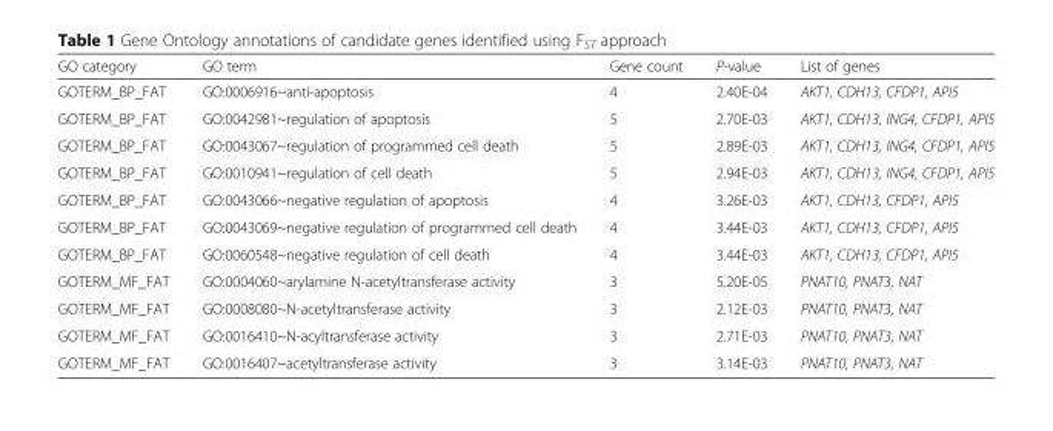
<table><thead><tr><td>GO category</td><td>GO term</td><td>Gene count</td><td>P-value</td><td>List of genes</td></tr></thead><tbody><tr><td>GOTERM_BP_FAT</td><td>GO:0006916~anti-apoptosis</td><td>4</td><td>2.40E-04</td><td>AKT1, CDH13, CFDP1, API5</td></tr><tr><td>GOTERM_BP_FAT</td><td>GO:0042981~regulation of apoptosis</td><td>5</td><td>2.70E-03</td><td>AKT1, CDH13, ING4, CFDP1, API5</td></tr><tr><td>GOTERM_BP_FAT</td><td>GO:0043067~regulation of programmed cell death</td><td>5</td><td>2.89E-03</td><td>AKT1, CDH13, ING4, CFDP1, API5</td></tr><tr><td>GOTERM_BP_FAT</td><td>GO:0010941~regulation of cell death</td><td>5</td><td>2.94E-03</td><td>AKT1, CDH13, ING4, CFDP1, API5</td></tr><tr><td>GOTERM_BP_FAT</td><td>GO:0043066~negative regulation of apoptosis</td><td>4</td><td>3.26E-03</td><td>AKT1, CDH13, CFDP1, API5</td></tr><tr><td>GOTERM_BP_FAT</td><td>GO:0043069~negative regulation of programmed cell death</td><td>4</td><td>3.44E-03</td><td>AKT1, CDH13, CFDP1, API5</td></tr><tr><td>GOTERM_BP_FAT</td><td>GO:0060548~negative regulation of cell death</td><td>4</td><td>3.44E-03</td><td>AKT1, CDH13, CFDP1, API5</td></tr><tr><td>GOTERM_MF_FAT</td><td>GO:0004060~arylamine N-acetyltransferase activity</td><td>3</td><td>5.20E-05</td><td>PNAT10, PNAT3, NAT</td></tr><tr><td>GOTERM_MF_FAT</td><td>GO:0008080~N-acetyltransferase activity</td><td>3</td><td>2.12E-03</td><td>PNAT10, PNAT3, NAT</td></tr><tr><td>GOTERM_MF_FAT</td><td>GO:0016410~N-acyltransferase activity</td><td>3</td><td>2.71E-03</td><td>PNAT10, PNAT3, NAT</td></tr><tr><td>GOTERM_MF_FAT</td><td>GO:0016407~acetyltransferase activity</td><td>3</td><td>3.14E-03</td><td>PNAT10, PNAT3, NAT</td></tr></tbody></table>